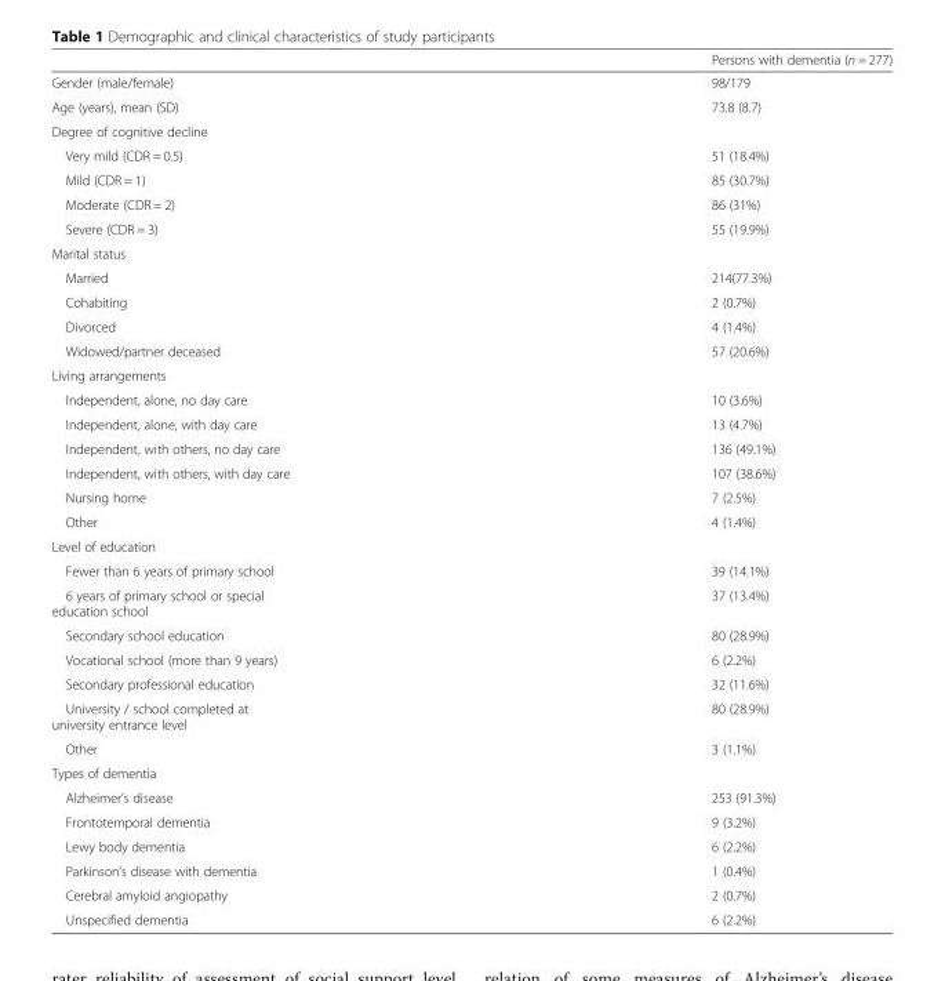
<table><thead><tr><td></td><td>Persons with dementia (n = 277)</td></tr></thead><tbody><tr><td>Gender (male/female)</td><td>98/179</td></tr><tr><td>Age (years), mean (SD)</td><td>73.8 (8.7)</td></tr><tr><td colspan="2">Degree of cognitive decline</td></tr><tr><td>Very mild (CDR = 0.5)</td><td>51 (18.4%)</td></tr><tr><td>Mild (CDR = 1)</td><td>85 (30.7%)</td></tr><tr><td>Moderate (CDR = 2)</td><td>86 (31%)</td></tr><tr><td>Severe (CDR = 3)</td><td>55 (19.9%)</td></tr><tr><td colspan="2">Marital status</td></tr><tr><td>Married</td><td>214(77.3%)</td></tr><tr><td>Cohabiting</td><td>2 (0.7%)</td></tr><tr><td>Divorced</td><td>4 (1.4%)</td></tr><tr><td>Widowed/partner deceased</td><td>57 (20.6%)</td></tr><tr><td colspan="2">Living arrangements</td></tr><tr><td>Independent, alone, no day care</td><td>10 (3.6%)</td></tr><tr><td>Independent, alone, with day care</td><td>13 (4.7%)</td></tr><tr><td>Independent, with others, no day care</td><td>136 (49.1%)</td></tr><tr><td>Independent, with others, with day care</td><td>107 (38.6%)</td></tr><tr><td>Nursing home</td><td>7 (2.5%)</td></tr><tr><td>Other</td><td>4 (1.4%)</td></tr><tr><td colspan="2">Level of education</td></tr><tr><td>Fewer than 6 years of primary school</td><td>39 (14.1%)</td></tr><tr><td>6 years of primary school or special education school</td><td>37 (13.4%)</td></tr><tr><td>Secondary school education</td><td>80 (28.9%)</td></tr><tr><td>Vocational school (more than 9 years)</td><td>6 (2.2%)</td></tr><tr><td>Secondary professional education</td><td>32 (11.6%)</td></tr><tr><td>University / school completed at university entrance level</td><td>80 (28.9%)</td></tr><tr><td>Other</td><td>3 (1.1%)</td></tr><tr><td colspan="2">Types of dementia</td></tr><tr><td>Alzheimer’s disease</td><td>253 (91.3%)</td></tr><tr><td>Frontotemporal dementia</td><td>9 (3.2%)</td></tr><tr><td>Lewy body dementia</td><td>6 (2.2%)</td></tr><tr><td>Parkinson’s disease with dementia</td><td>1 (0.4%)</td></tr><tr><td>Cerebral amyloid angiopathy</td><td>2 (0.7%)</td></tr><tr><td>Unspecified dementia</td><td>6 (2.2%)</td></tr></tbody></table>